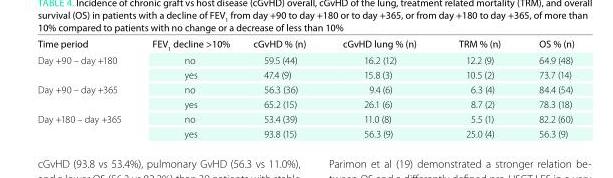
<table><thead><tr><td>time period</td><td>FEV<sub>1</sub> decline &gt;10%</td><td>cGvHD % (n)</td><td>cGvHD lung % (n)</td><td>tRm % (n)</td><td>oS % (n)</td></tr></thead><tbody><tr><td rowspan="2">Day +90 – day +180</td><td>no</td><td>59.5 (44)</td><td>16.2 (12)</td><td>12.2 (9)</td><td>64.9 (48)</td></tr><tr><td>yes</td><td>47.4 (9)</td><td>15.8 (3)</td><td>10.5 (2)</td><td>73.7 (14)</td></tr><tr><td rowspan="2">Day +90 – day +365</td><td>no</td><td>56.3 (36)</td><td>9.4 (6)</td><td>6.3 (4)</td><td>84.4 (54)</td></tr><tr><td>yes</td><td>65.2 (15)</td><td>26.1 (6)</td><td>8.7 (2)</td><td>78.3 (18)</td></tr><tr><td rowspan="2">Day +180 – day +365</td><td>no</td><td>53.4 (39)</td><td>11.0 (8)</td><td>5.5 (1)</td><td>82.2 (60)</td></tr><tr><td>yes</td><td>93.8 (15)</td><td>56.3 (9)</td><td>25.0 (4)</td><td>56.3 (9)</td></tr></tbody></table>